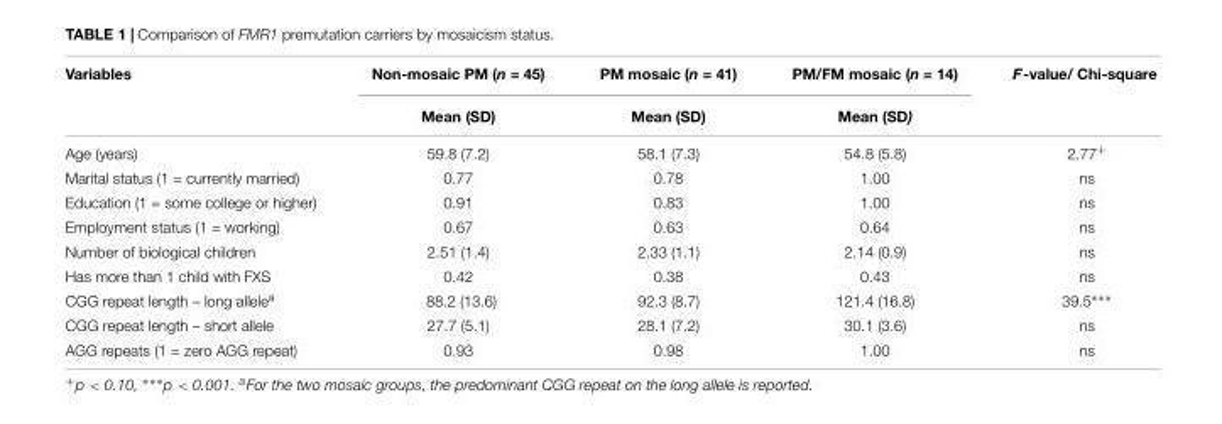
<table><thead><tr><td rowspan="2">Variables</td><td rowspan="2">Non-mosaic PM (n = 45) Mean (SD)</td><td rowspan="2">PM mosaic (n = 41) Mean (SD)</td><td rowspan="2">PM/FM mosaic (n = 14) Mean (SD)</td><td rowspan="2">F-value/ Chi-square</td></tr><tr></tr></thead><tbody><tr><td>Age (years)</td><td>59.8 (7.2)</td><td>58.1 (7.3)</td><td>54.8 (5.8)</td><td>2.77<sup>+</sup></td></tr><tr><td>Marital status (1 = currently married)</td><td>0.77</td><td>0.78</td><td>1.00</td><td>ns</td></tr><tr><td>Education (1 = some college or higher)</td><td>0.91</td><td>0.83</td><td>1.00</td><td>ns</td></tr><tr><td>Employment status (1 = working)</td><td>0.67</td><td>0.63</td><td>0.64</td><td>ns</td></tr><tr><td>Number of biological children</td><td>2.51 (1.4)</td><td>2.33 (1.1)</td><td>2.14 (0.9)</td><td>ns</td></tr><tr><td>Has more than 1 child with FXS</td><td>0.42</td><td>0.38</td><td>0.43</td><td>ns</td></tr><tr><td>CGG repeat length – long allele<sup>a</sup></td><td>88.2 (13.6)</td><td>92.3 (8.7)</td><td>121.4 (16.8)</td><td>39.5∗∗∗</td></tr><tr><td>CGG repeat length – short allele</td><td>27.7 (5.1)</td><td>28.1 (7.2)</td><td>30.1 (3.6)</td><td>ns</td></tr><tr><td>AGG repeats (1 = zero AGG repeat)</td><td>0.93</td><td>0.98</td><td>1.00</td><td>ns</td></tr></tbody></table>